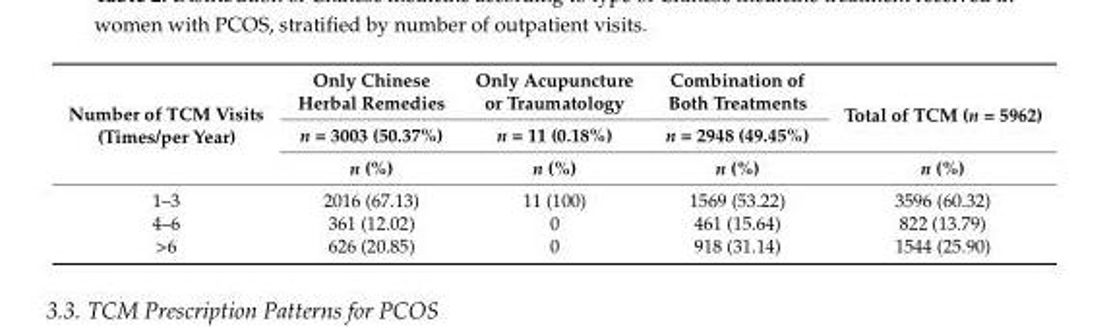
<table><thead><tr><td rowspan="3">Number of TCM Visits (Times/per Year)</td><td rowspan="3">Only Chinese Herbal Remedies n = 3003 (50.37%) n (%)</td><td rowspan="3">Only Acupuncture or Traumatology n = 11 (0.18%) n (%)</td><td rowspan="3">Combination of Both Treatments n = 2948 (49.45%) n (%)</td><td rowspan="3">Total of TCM (n = 5962) n (%)</td></tr><tr></tr><tr></tr></thead><tbody><tr><td>1–3</td><td>2016 (67.13)</td><td>11 (100)</td><td>1569 (53.22)</td><td>3596 (60.32)</td></tr><tr><td>4–6</td><td>361 (12.02)</td><td>0</td><td>461 (15.64)</td><td>822 (13.79)</td></tr><tr><td>&gt;6</td><td>626 (20.85)</td><td>0</td><td>918 (31.14)</td><td>1544 (25.90)</td></tr></tbody></table>